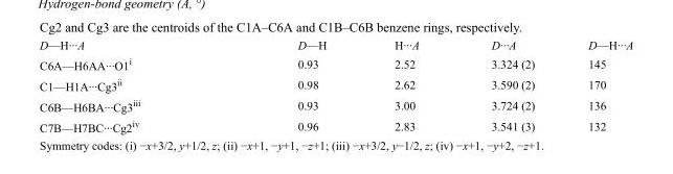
<table><tbody><tr><td>D—H···A</td><td>D—H</td><td>H···A</td><td>D···A</td><td>D—H···A</td></tr><tr><td>C6A—H6AA···O1<sup>i</sup></td><td>0.93</td><td>2.52</td><td>3.324 (2)</td><td>145</td></tr><tr><td>C1—H1A···Cg3<sup>ii</sup></td><td>0.98</td><td>2.62</td><td>3.590 (2)</td><td>170</td></tr><tr><td>C6B—H6BA···Cg3<sup>iii</sup></td><td>0.93</td><td>3.00</td><td>3.724 (2)</td><td>136</td></tr><tr><td>C7B—H7BC···Cg2<sup>iv</sup></td><td>0.96</td><td>2.83</td><td>3.541 (3)</td><td>132</td></tr></tbody></table>